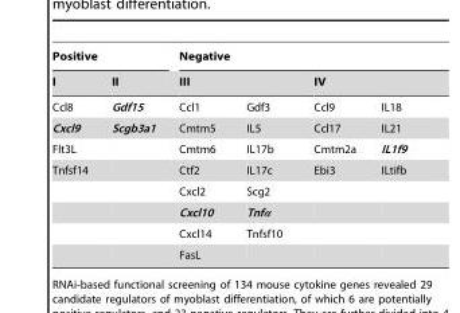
<table><thead><tr><td colspan="2">Positive</td><td colspan="4">Negative</td></tr><tr><td rowspan="2">I Ccl8</td><td rowspan="2">II Gdf15</td><td colspan="2">III</td><td colspan="2">IV</td></tr><tr><td>Ccl1</td><td>Gdf3</td><td>Ccl9</td><td>IL18</td></tr></thead><tbody><tr><td>Cxcl9</td><td>Scgb3a1</td><td>Cmtm5</td><td>IL5</td><td>Ccl17</td><td>IL21</td></tr><tr><td>Flt3L</td><td></td><td>Cmtm6</td><td>IL17b</td><td>Cmtm2a</td><td>IL1f9</td></tr><tr><td rowspan="5">Tnfsf14</td><td></td><td>Ctf2</td><td>IL17c</td><td>Ebi3</td><td>ILtifb</td></tr><tr><td></td><td>Cxcl2</td><td>Scg2</td><td></td><td></td></tr><tr><td></td><td>Cxcl10</td><td>Tnfα</td><td></td><td></td></tr><tr><td></td><td>Cxcl14</td><td>Tnfsf10</td><td></td><td></td></tr><tr><td></td><td>FasL</td><td></td><td></td><td></td></tr></tbody></table>